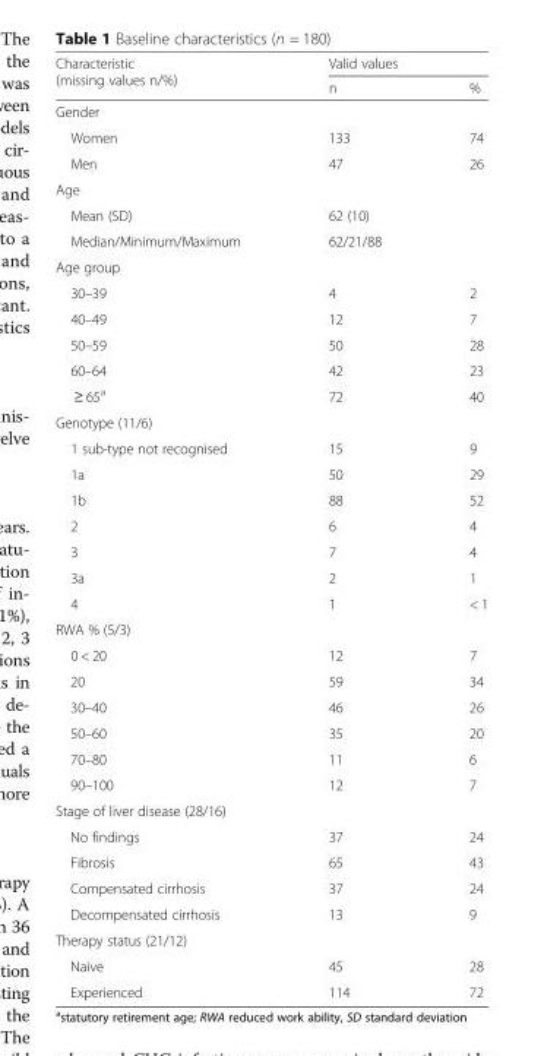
<table><thead><tr><td rowspan="2">Characteristic (missing values n/%)</td><td colspan="2">Valid values</td></tr><tr><td>n</td><td>%</td></tr></thead><tbody><tr><td colspan="3">Gender</td></tr><tr><td>Women</td><td>133</td><td>74</td></tr><tr><td>Men</td><td>47</td><td>26</td></tr><tr><td colspan="3">Age</td></tr><tr><td>Mean (SD)</td><td>62 (10)</td><td></td></tr><tr><td>Median/Minimum/Maximum</td><td>62/21/88</td><td></td></tr><tr><td colspan="3">Age group</td></tr><tr><td>30–39</td><td>4</td><td>2</td></tr><tr><td>40–49</td><td>12</td><td>7</td></tr><tr><td>50–59</td><td>50</td><td>28</td></tr><tr><td>60–64</td><td>42</td><td>23</td></tr><tr><td>≥ 65<sup>a</sup></td><td>72</td><td>40</td></tr><tr><td colspan="3">Genotype (11/6)</td></tr><tr><td>1 sub-type not recognised</td><td>15</td><td>9</td></tr><tr><td>1a</td><td>50</td><td>29</td></tr><tr><td>1b</td><td>88</td><td>52</td></tr><tr><td>2</td><td>6</td><td>4</td></tr><tr><td>3</td><td>7</td><td>4</td></tr><tr><td>3a</td><td>2</td><td>1</td></tr><tr><td>4</td><td>1</td><td>&lt; 1</td></tr><tr><td colspan="3">RWA % (5/3)</td></tr><tr><td>0 &lt; 20</td><td>12</td><td>7</td></tr><tr><td>20</td><td>59</td><td>34</td></tr><tr><td>30–40</td><td>46</td><td>26</td></tr><tr><td>50–60</td><td>35</td><td>20</td></tr><tr><td>70–80</td><td>11</td><td>6</td></tr><tr><td>90–100</td><td>12</td><td>7</td></tr><tr><td colspan="3">Stage of liver disease (28/16)</td></tr><tr><td>No findings</td><td>37</td><td>24</td></tr><tr><td>Fibrosis</td><td>65</td><td>43</td></tr><tr><td>Compensated cirrhosis</td><td>37</td><td>24</td></tr><tr><td>Decompensated cirrhosis</td><td>13</td><td>9</td></tr><tr><td colspan="3">Therapy status (21/12)</td></tr><tr><td>Naive</td><td>45</td><td>28</td></tr><tr><td>Experienced</td><td>114</td><td>72</td></tr></tbody></table>